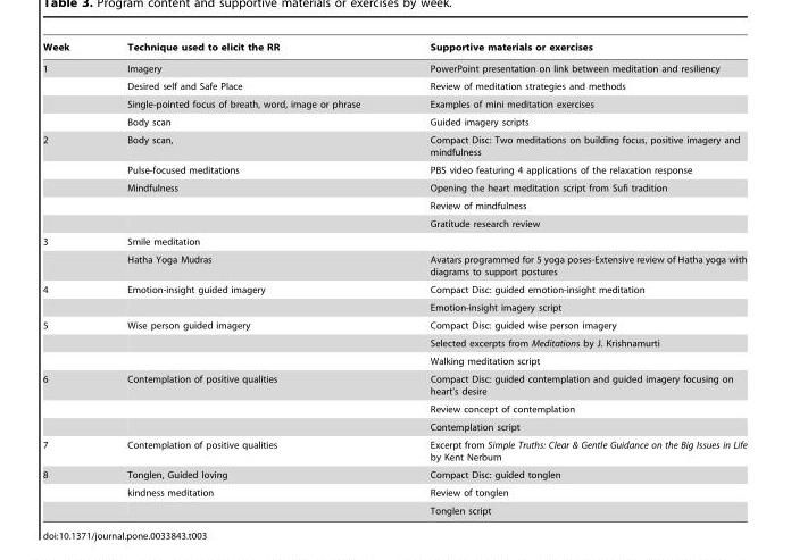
<table><thead><tr><td>Week</td><td>Technique used to elicit the RR</td><td>Supportive materials or exercises</td></tr></thead><tbody><tr><td rowspan="4">1</td><td>Imagery</td><td>PowerPoint presentation on link between meditation and resiliency</td></tr><tr><td>Desired self and Safe Place</td><td>Review of meditation strategies and methods</td></tr><tr><td>Single-pointed focus of breath, word, image or phrase</td><td>Examples of mini meditation exercises</td></tr><tr><td>Body scan</td><td>Guided imagery scripts</td></tr><tr><td rowspan="5">2</td><td>Body scan,</td><td>Compact Disc: Two meditations on building focus, positive imagery and mindfulness</td></tr><tr><td>Pulse-focused meditations</td><td>PBS video featuring 4 applications of the relaxation response</td></tr><tr><td>Mindfulness</td><td>Opening the heart meditation script from Sufi tradition</td></tr><tr><td></td><td>Review of mindfulness</td></tr><tr><td></td><td>Gratitude research review</td></tr><tr><td rowspan="2">3</td><td>Smile meditation</td><td></td></tr><tr><td>Hatha Yoga Mudras</td><td>Avatars programmed for 5 yoga poses-Extensive review of Hatha yoga with diagrams to support postures</td></tr><tr><td rowspan="2">4</td><td>Emotion-insight guided imagery</td><td>Compact Disc: guided emotion-insight meditation</td></tr><tr><td></td><td>Emotion-insight imagery script</td></tr><tr><td rowspan="3">5</td><td>Wise person guided imagery</td><td>Compact Disc: guided wise person imagery</td></tr><tr><td></td><td>Selected excerpts from Meditations by J. Krishnamurti</td></tr><tr><td></td><td>Walking meditation script</td></tr><tr><td rowspan="3">6</td><td>Contemplation of positive qualities</td><td>Compact Disc: guided contemplation and guided imagery focusing on heart’s desire</td></tr><tr><td></td><td>Review concept of contemplation</td></tr><tr><td></td><td>Contemplation script</td></tr><tr><td>7</td><td>Contemplation of positive qualities</td><td>Excerpt from Simple Truths: Clear &amp; Gentle Guidance on the Big Issues in Life by Kent Nerburn</td></tr><tr><td rowspan="3">8</td><td>Tonglen, Guided loving</td><td>Compact Disc: guided tonglen</td></tr><tr><td>kindness meditation</td><td>Review of tonglen</td></tr><tr><td></td><td>Tonglen script</td></tr></tbody></table>